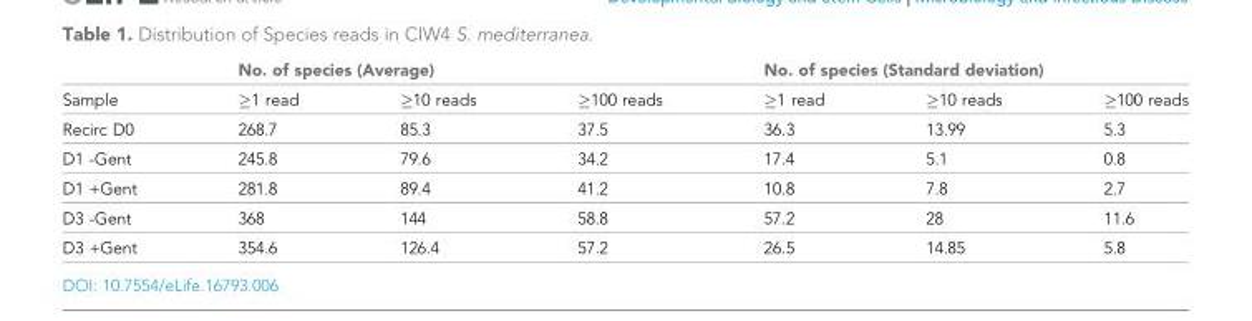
<table><thead><tr><td rowspan="2">Sample</td><td colspan="3">No. of species (Average)</td><td colspan="3">No. of species (Standard deviation)</td></tr><tr><td>≥1 read</td><td>≥10 reads</td><td>≥100 reads</td><td>≥1 read</td><td>≥10 reads</td><td>≥100 reads</td></tr></thead><tbody><tr><td>Recirc D0</td><td>268.7</td><td>85.3</td><td>37.5</td><td>36.3</td><td>13.99</td><td>5.3</td></tr><tr><td>D1 -Gent</td><td>245.8</td><td>79.6</td><td>34.2</td><td>17.4</td><td>5.1</td><td>0.8</td></tr><tr><td>D1 +Gent</td><td>281.8</td><td>89.4</td><td>41.2</td><td>10.8</td><td>7.8</td><td>2.7</td></tr><tr><td>D3 -Gent</td><td>368</td><td>144</td><td>58.8</td><td>57.2</td><td>28</td><td>11.6</td></tr><tr><td>D3 +Gent</td><td>354.6</td><td>126.4</td><td>57.2</td><td>26.5</td><td>14.85</td><td>5.8</td></tr></tbody></table>